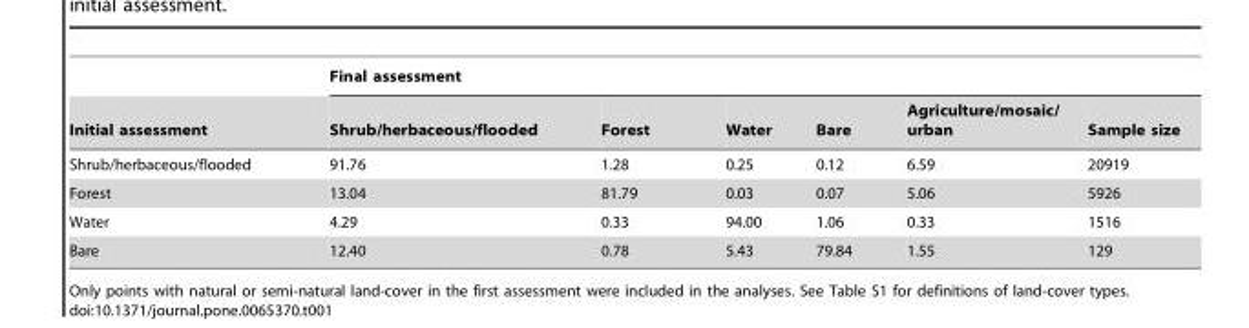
<table><thead><tr><td rowspan="2">Initial assessment</td><td colspan="6">Final assessment</td></tr><tr><td>Shrub/herbaceous/flooded</td><td>Forest</td><td>Water</td><td>Bare</td><td>Agriculture/mosaic/ urban</td><td>Sample size</td></tr></thead><tbody><tr><td>Shrub/herbaceous/flooded</td><td>91.76</td><td>1.28</td><td>0.25</td><td>0.12</td><td>6.59</td><td>20919</td></tr><tr><td>Forest</td><td>13.04</td><td>81.79</td><td>0.03</td><td>0.07</td><td>5.06</td><td>5926</td></tr><tr><td>Water</td><td>4.29</td><td>0.33</td><td>94.00</td><td>1.06</td><td>0.33</td><td>1516</td></tr><tr><td>Bare</td><td>12.40</td><td>0.78</td><td>5.43</td><td>79.84</td><td>1.55</td><td>129</td></tr></tbody></table>